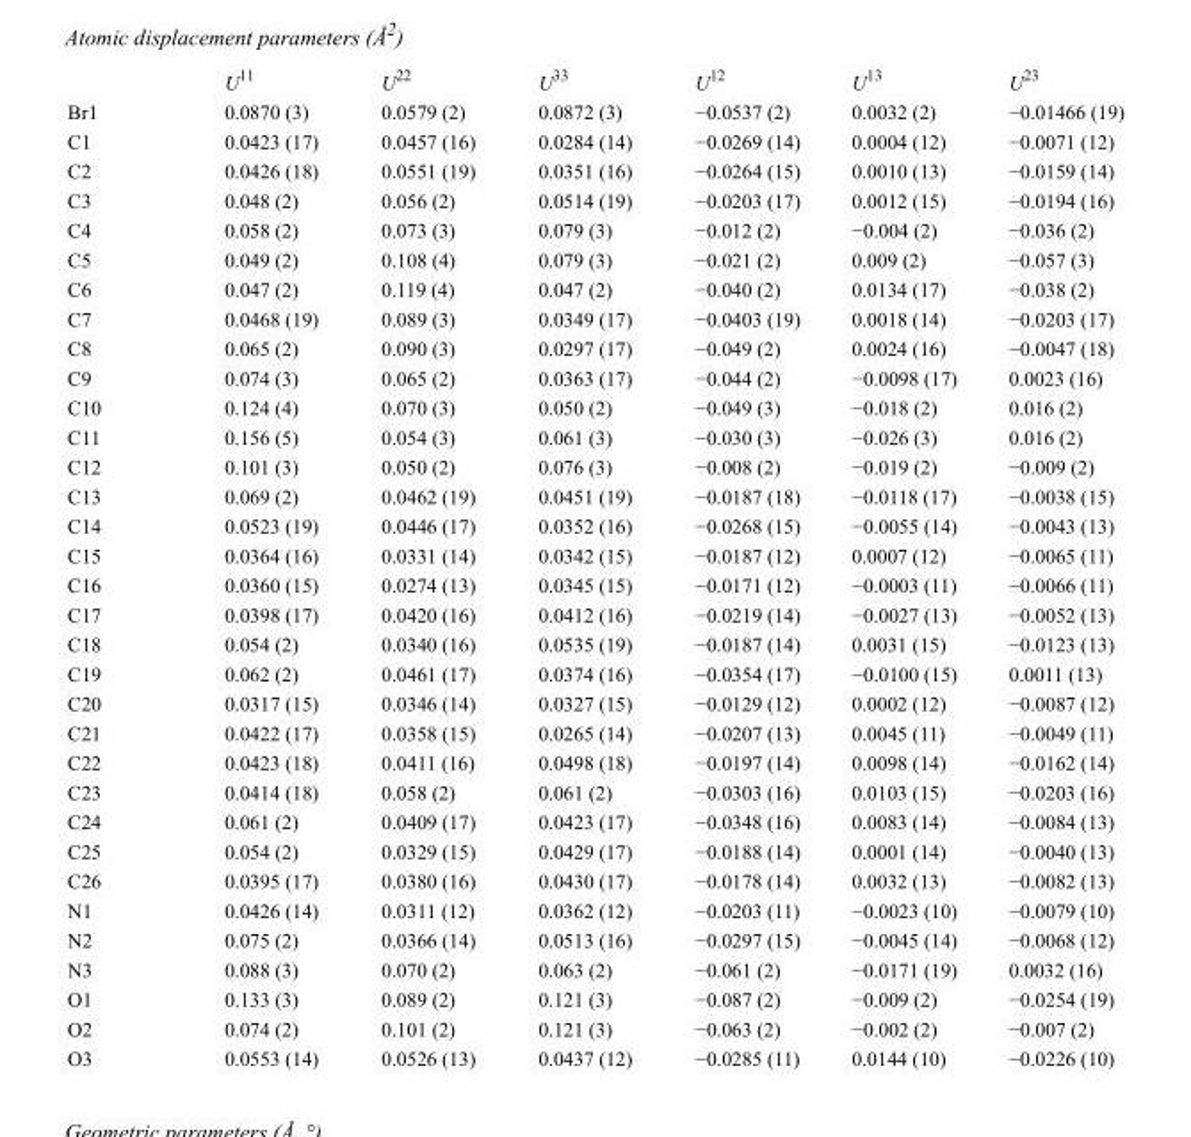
<table><thead><tr><td></td><td>U<sup>11</sup></td><td>U<sup>22</sup></td><td>U<sup>33</sup></td><td>U<sup>12</sup></td><td>U<sup>13</sup></td><td>U<sup>23</sup></td></tr></thead><tbody><tr><td>Br1</td><td>0.0870 (3)</td><td>0.0579 (2)</td><td>0.0872 (3)</td><td>−0.0537 (2)</td><td>0.0032 (2)</td><td>−0.01466 (19)</td></tr><tr><td>C1</td><td>0.0423 (17)</td><td>0.0457 (16)</td><td>0.0284 (14)</td><td>−0.0269 (14)</td><td>0.0004 (12)</td><td>−0.0071 (12)</td></tr><tr><td>C2</td><td>0.0426 (18)</td><td>0.0551 (19)</td><td>0.0351 (16)</td><td>−0.0264 (15)</td><td>0.0010 (13)</td><td>−0.0159 (14)</td></tr><tr><td>C3</td><td>0.048 (2)</td><td>0.056 (2)</td><td>0.0514 (19)</td><td>−0.0203 (17)</td><td>0.0012 (15)</td><td>−0.0194 (16)</td></tr><tr><td>C4</td><td>0.058 (2)</td><td>0.073 (3)</td><td>0.079 (3)</td><td>−0.012 (2)</td><td>−0.004 (2)</td><td>−0.036 (2)</td></tr><tr><td>C5</td><td>0.049 (2)</td><td>0.108 (4)</td><td>0.079 (3)</td><td>−0.021 (2)</td><td>0.009 (2)</td><td>−0.057 (3)</td></tr><tr><td>C6</td><td>0.047 (2)</td><td>0.119 (4)</td><td>0.047 (2)</td><td>−0.040 (2)</td><td>0.0134 (17)</td><td>−0.038 (2)</td></tr><tr><td>C7</td><td>0.0468 (19)</td><td>0.089 (3)</td><td>0.0349 (17)</td><td>−0.0403 (19)</td><td>0.0018 (14)</td><td>−0.0203 (17)</td></tr><tr><td>C8</td><td>0.065 (2)</td><td>0.090 (3)</td><td>0.0297 (17)</td><td>−0.049 (2)</td><td>0.0024 (16)</td><td>−0.0047 (18)</td></tr><tr><td>C9</td><td>0.074 (3)</td><td>0.065 (2)</td><td>0.0363 (17)</td><td>−0.044 (2)</td><td>−0.0098 (17)</td><td>0.0023 (16)</td></tr><tr><td>C10</td><td>0.124 (4)</td><td>0.070 (3)</td><td>0.050 (2)</td><td>−0.049 (3)</td><td>−0.018 (2)</td><td>0.016 (2)</td></tr><tr><td>C11</td><td>0.156 (5)</td><td>0.054 (3)</td><td>0.061 (3)</td><td>−0.030 (3)</td><td>−0.026 (3)</td><td>0.016 (2)</td></tr><tr><td>C12</td><td>0.101 (3)</td><td>0.050 (2)</td><td>0.076 (3)</td><td>−0.008 (2)</td><td>−0.019 (2)</td><td>−0.009 (2)</td></tr><tr><td>C13</td><td>0.069 (2)</td><td>0.0462 (19)</td><td>0.0451 (19)</td><td>−0.0187 (18)</td><td>−0.0118 (17)</td><td>−0.0038 (15)</td></tr><tr><td>C14</td><td>0.0523 (19)</td><td>0.0446 (17)</td><td>0.0352 (16)</td><td>−0.0268 (15)</td><td>−0.0055 (14)</td><td>−0.0043 (13)</td></tr><tr><td>C15</td><td>0.0364 (16)</td><td>0.0331 (14)</td><td>0.0342 (15)</td><td>−0.0187 (12)</td><td>0.0007 (12)</td><td>−0.0065 (11)</td></tr><tr><td>C16</td><td>0.0360 (15)</td><td>0.0274 (13)</td><td>0.0345 (15)</td><td>−0.0171 (12)</td><td>−0.0003 (11)</td><td>−0.0066 (11)</td></tr><tr><td>C17</td><td>0.0398 (17)</td><td>0.0420 (16)</td><td>0.0412 (16)</td><td>−0.0219 (14)</td><td>−0.0027 (13)</td><td>−0.0052 (13)</td></tr><tr><td>C18</td><td>0.054 (2)</td><td>0.0340 (16)</td><td>0.0535 (19)</td><td>−0.0187 (14)</td><td>0.0031 (15)</td><td>−0.0123 (13)</td></tr><tr><td>C19</td><td>0.062 (2)</td><td>0.0461 (17)</td><td>0.0374 (16)</td><td>−0.0354 (17)</td><td>−0.0100 (15)</td><td>0.0011 (13)</td></tr><tr><td>C20</td><td>0.0317 (15)</td><td>0.0346 (14)</td><td>0.0327 (15)</td><td>−0.0129 (12)</td><td>0.0002 (12)</td><td>−0.0087 (12)</td></tr><tr><td>C21</td><td>0.0422 (17)</td><td>0.0358 (15)</td><td>0.0265 (14)</td><td>−0.0207 (13)</td><td>0.0045 (11)</td><td>−0.0049 (11)</td></tr><tr><td>C22</td><td>0.0423 (18)</td><td>0.0411 (16)</td><td>0.0498 (18)</td><td>−0.0197 (14)</td><td>0.0098 (14)</td><td>−0.0162 (14)</td></tr><tr><td>C23</td><td>0.0414 (18)</td><td>0.058 (2)</td><td>0.061 (2)</td><td>−0.0303 (16)</td><td>0.0103 (15)</td><td>−0.0203 (16)</td></tr><tr><td>C24</td><td>0.061 (2)</td><td>0.0409 (17)</td><td>0.0423 (17)</td><td>−0.0348 (16)</td><td>0.0083 (14)</td><td>−0.0084 (13)</td></tr><tr><td>C25</td><td>0.054 (2)</td><td>0.0329 (15)</td><td>0.0429 (17)</td><td>−0.0188 (14)</td><td>0.0001 (14)</td><td>−0.0040 (13)</td></tr><tr><td>C26</td><td>0.0395 (17)</td><td>0.0380 (16)</td><td>0.0430 (17)</td><td>−0.0178 (14)</td><td>0.0032 (13)</td><td>−0.0082 (13)</td></tr><tr><td>N1</td><td>0.0426 (14)</td><td>0.0311 (12)</td><td>0.0362 (12)</td><td>−0.0203 (11)</td><td>−0.0023 (10)</td><td>−0.0079 (10)</td></tr><tr><td>N2</td><td>0.075 (2)</td><td>0.0366 (14)</td><td>0.0513 (16)</td><td>−0.0297 (15)</td><td>−0.0045 (14)</td><td>−0.0068 (12)</td></tr><tr><td>N3</td><td>0.088 (3)</td><td>0.070 (2)</td><td>0.063 (2)</td><td>−0.061 (2)</td><td>−0.0171 (19)</td><td>0.0032 (16)</td></tr><tr><td>O1</td><td>0.133 (3)</td><td>0.089 (2)</td><td>0.121 (3)</td><td>−0.087 (2)</td><td>−0.009 (2)</td><td>−0.0254 (19)</td></tr><tr><td>O2</td><td>0.074 (2)</td><td>0.101 (2)</td><td>0.121 (3)</td><td>−0.063 (2)</td><td>−0.002 (2)</td><td>−0.007 (2)</td></tr><tr><td>O3</td><td>0.0553 (14)</td><td>0.0526 (13)</td><td>0.0437 (12)</td><td>−0.0285 (11)</td><td>0.0144 (10)</td><td>−0.0226 (10)</td></tr></tbody></table>